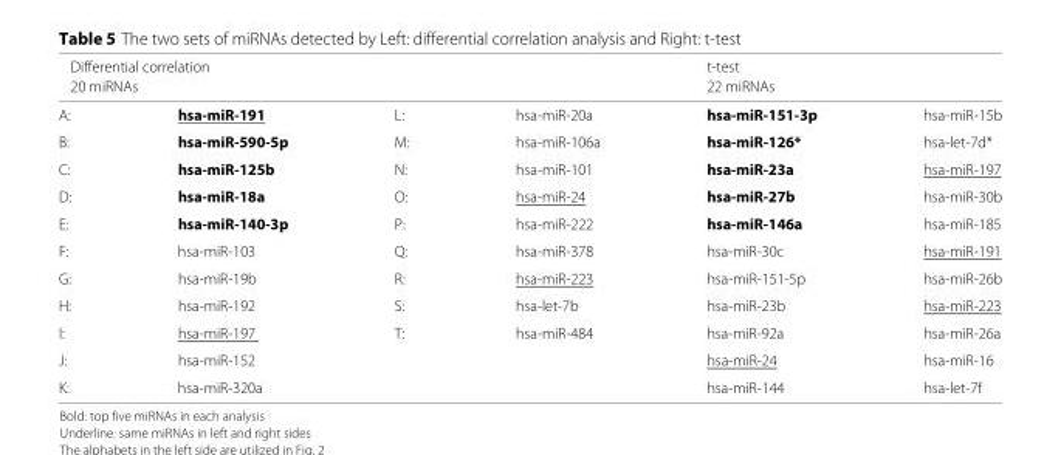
<table><thead><tr><td rowspan="2" colspan="4">Differential correlation 20 miRNAs</td><td rowspan="2" colspan="2">t-test 22 miRNAs</td></tr><tr></tr><tr><td>A:</td><td>hsa-miR-191</td><td>L:</td><td>hsa-miR-20a</td><td>hsa-miR-151-3p</td><td>hsa-miR-15b</td></tr></thead><tbody><tr><td>B:</td><td>hsa-miR-590-5p</td><td>M:</td><td>hsa-miR-106a</td><td>hsa-miR-126*</td><td>hsa-let-7d*</td></tr><tr><td>C:</td><td>hsa-miR-125b</td><td>N:</td><td>hsa-miR-101</td><td>hsa-miR-23a</td><td>hsa-miR-197</td></tr><tr><td>D:</td><td>hsa-miR-18a</td><td>O:</td><td>hsa-miR-24</td><td>hsa-miR-27b</td><td>hsa-miR-30b</td></tr><tr><td>E:</td><td>hsa-miR-140-3p</td><td>P:</td><td>hsa-miR-222</td><td>hsa-miR-146a</td><td>hsa-miR-185</td></tr><tr><td>F:</td><td>hsa-miR-103</td><td>Q:</td><td>hsa-miR-378</td><td>hsa-miR-30c</td><td>hsa-miR-191</td></tr><tr><td>G:</td><td>hsa-miR-19b</td><td>R:</td><td>hsa-miR-223</td><td>hsa-miR-151-5p</td><td>hsa-miR-26b</td></tr><tr><td>H:</td><td>hsa-miR-192</td><td>S:</td><td>hsa-let-7b</td><td>hsa-miR-23b</td><td>hsa-miR-223</td></tr><tr><td>I:</td><td>hsa-miR-197</td><td>T:</td><td>hsa-miR-484</td><td>hsa-miR-92a</td><td>hsa-miR-26a</td></tr><tr><td>J:</td><td>hsa-miR-152</td><td></td><td></td><td>hsa-miR-24</td><td>hsa-miR-16</td></tr><tr><td>K:</td><td>hsa-miR-320a</td><td></td><td></td><td>hsa-miR-144</td><td>hsa-let-7f</td></tr></tbody></table>